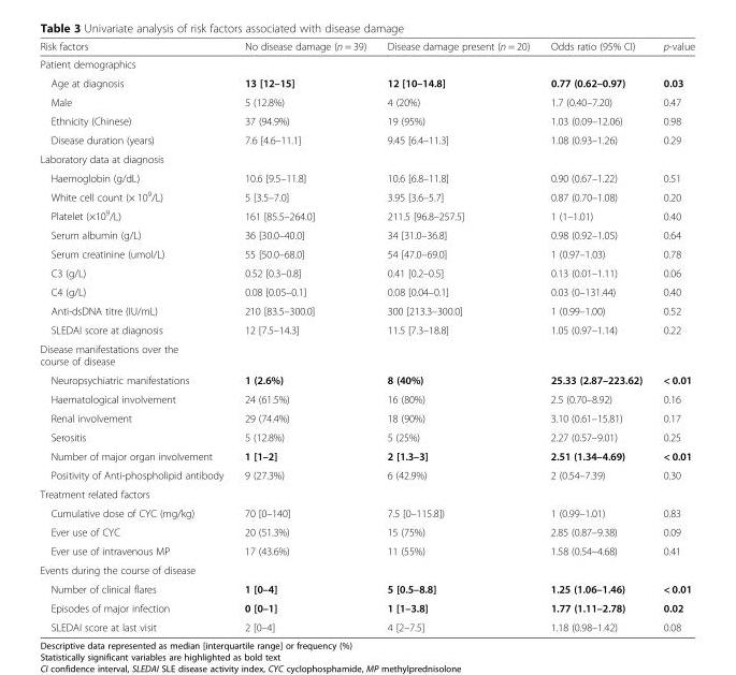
<table><thead><tr><td>Risk factors</td><td>No disease damage (n = 39)</td><td>Disease damage present (n = 20)</td><td>Odds ratio (95% CI)</td><td>p-value</td></tr></thead><tbody><tr><td colspan="5">Patient demographics</td></tr><tr><td>Age at diagnosis</td><td>13 [12–15]</td><td>12 [10–14.8]</td><td>0.77 (0.62–0.97)</td><td>0.03</td></tr><tr><td>Male</td><td>5 (12.8%)</td><td>4 (20%)</td><td>1.7 (0.40–7.20)</td><td>0.47</td></tr><tr><td>Ethnicity (Chinese)</td><td>37 (94.9%)</td><td>19 (95%)</td><td>1.03 (0.09–12.06)</td><td>0.98</td></tr><tr><td>Disease duration (years)</td><td>7.6 [4.6–11.1]</td><td>9.45 [6.4–11.3]</td><td>1.08 (0.93–1.26)</td><td>0.29</td></tr><tr><td colspan="5">Laboratory data at diagnosis</td></tr><tr><td>Haemoglobin (g/dL)</td><td>10.6 [9.5–11.8]</td><td>10.6 [6.8–11.8]</td><td>0.90 (0.67–1.22)</td><td>0.51</td></tr><tr><td>White cell count (× 10<sup>9</sup>/L)</td><td>5 [3.5–7.0]</td><td>3.95 [3.6–5.7]</td><td>0.87 (0.70–1.08)</td><td>0.20</td></tr><tr><td>Platelet (×10<sup>9</sup>/L)</td><td>161 [85.5–264.0]</td><td>211.5 [96.8–257.5]</td><td>1 (1–1.01)</td><td>0.40</td></tr><tr><td>Serum albumin (g/L)</td><td>36 [30.0–40.0]</td><td>34 [31.0–36.8]</td><td>0.98 (0.92–1.05)</td><td>0.64</td></tr><tr><td>Serum creatinine (umol/L)</td><td>55 [50.0–68.0]</td><td>54 [47.0–69.0]</td><td>1 (0.97–1.03)</td><td>0.78</td></tr><tr><td>C3 (g/L)</td><td>0.52 [0.3–0.8]</td><td>0.41 [0.2–0.5]</td><td>0.13 (0.01–1.11)</td><td>0.06</td></tr><tr><td>C4 (g/L)</td><td>0.08 [0.05–0.1]</td><td>0.08 [0.04–0.1]</td><td>0.03 (0–131.44)</td><td>0.40</td></tr><tr><td>Anti-dsDNA titre (IU/mL)</td><td>210 [83.5–300.0]</td><td>300 [213.3–300.0]</td><td>1 (0.99–1.00)</td><td>0.52</td></tr><tr><td>SLEDAI score at diagnosis</td><td>12 [7.5–14.3]</td><td>11.5 [7.3–18.8]</td><td>1.05 (0.97–1.14)</td><td>0.22</td></tr><tr><td colspan="5">Disease manifestations over the course of disease</td></tr><tr><td>Neuropsychiatric manifestations</td><td>1 (2.6%)</td><td>8 (40%)</td><td>25.33 (2.87–223.62)</td><td>&lt; 0.01</td></tr><tr><td>Haematological involvement</td><td>24 (61.5%)</td><td>16 (80%)</td><td>2.5 (0.70–8.92)</td><td>0.16</td></tr><tr><td>Renal involvement</td><td>29 (74.4%)</td><td>18 (90%)</td><td>3.10 (0.61–15.81)</td><td>0.17</td></tr><tr><td>Serositis</td><td>5 (12.8%)</td><td>5 (25%)</td><td>2.27 (0.57–9.01)</td><td>0.25</td></tr><tr><td>Number of major organ involvement</td><td>1 [1–2]</td><td>2 [1.3–3]</td><td>2.51 (1.34–4.69)</td><td>&lt; 0.01</td></tr><tr><td>Positivity of Anti-phospholipid antibody</td><td>9 (27.3%)</td><td>6 (42.9%)</td><td>2 (0.54–7.39)</td><td>0.30</td></tr><tr><td colspan="5">Treatment related factors</td></tr><tr><td>Cumulative dose of CYC (mg/kg)</td><td>70 [0–140]</td><td>7.5 [0–115.8])</td><td>1 (0.99–1.01)</td><td>0.83</td></tr><tr><td>Ever use of CYC</td><td>20 (51.3%)</td><td>15 (75%)</td><td>2.85 (0.87–9.38)</td><td>0.09</td></tr><tr><td>Ever use of intravenous MP</td><td>17 (43.6%)</td><td>11 (55%)</td><td>1.58 (0.54–4.68)</td><td>0.41</td></tr><tr><td colspan="5">Events during the course of disease</td></tr><tr><td>Number of clinical flares</td><td>1 [0–4]</td><td>5 [0.5–8.8]</td><td>1.25 (1.06–1.46)</td><td>&lt; 0.01</td></tr><tr><td>Episodes of major infection</td><td>0 [0–1]</td><td>1 [1–3.8]</td><td>1.77 (1.11–2.78)</td><td>0.02</td></tr><tr><td>SLEDAI score at last visit</td><td>2 [0–4]</td><td>4 [2–7.5]</td><td>1.18 (0.98–1.42)</td><td>0.08</td></tr></tbody></table>